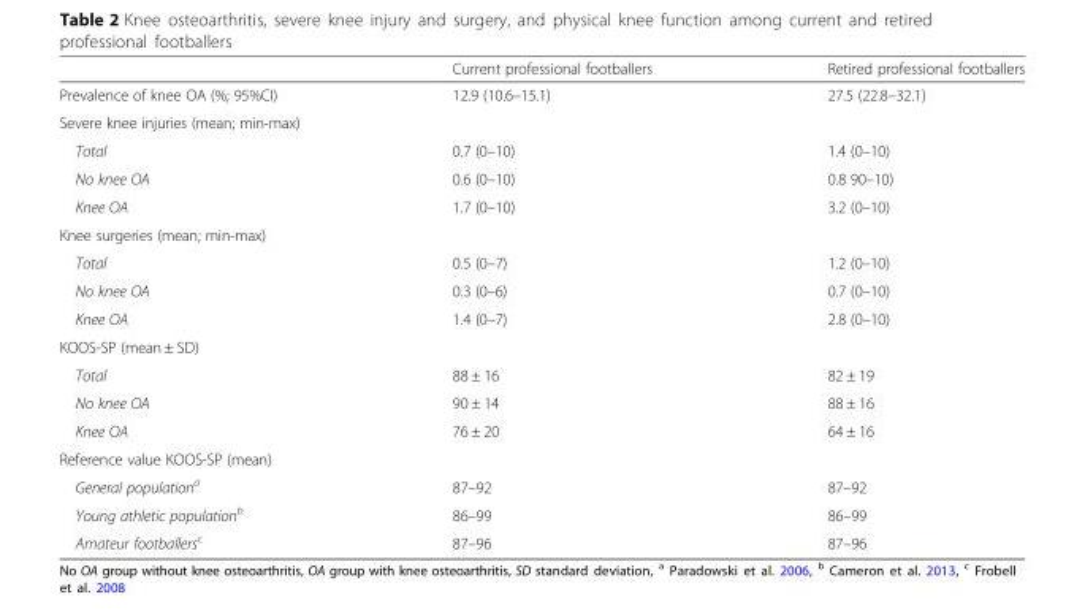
<table><thead><tr><td></td><td>Current professional footballers</td><td>Retired professional footballers</td></tr></thead><tbody><tr><td>Prevalence of knee OA (%; 95%CI)</td><td>12.9 (10.6–15.1)</td><td>27.5 (22.8–32.1)</td></tr><tr><td colspan="3">Severe knee injuries (mean; min-max)</td></tr><tr><td>Total</td><td>0.7 (0–10)</td><td>1.4 (0–10)</td></tr><tr><td>No knee OA</td><td>0.6 (0–10)</td><td>0.8 90–10)</td></tr><tr><td>Knee OA</td><td>1.7 (0–10)</td><td>3.2 (0–10)</td></tr><tr><td colspan="3">Knee surgeries (mean; min-max)</td></tr><tr><td>Total</td><td>0.5 (0–7)</td><td>1.2 (0–10)</td></tr><tr><td>No knee OA</td><td>0.3 (0–6)</td><td>0.7 (0–10)</td></tr><tr><td>Knee OA</td><td>1.4 (0–7)</td><td>2.8 (0–10)</td></tr><tr><td colspan="3">KOOS-SP (mean ± SD)</td></tr><tr><td>Total</td><td>88 ± 16</td><td>82 ± 19</td></tr><tr><td>No knee OA</td><td>90 ± 14</td><td>88 ± 16</td></tr><tr><td>Knee OA</td><td>76 ± 20</td><td>64 ± 16</td></tr><tr><td colspan="3">Reference value KOOS-SP (mean)</td></tr><tr><td>General population<sup>a</sup></td><td>87–92</td><td>87–92</td></tr><tr><td>Young athletic population<sup>b</sup></td><td>86–99</td><td>86–99</td></tr><tr><td>Amateur footballers<sup>c</sup></td><td>87–96</td><td>87–96</td></tr></tbody></table>